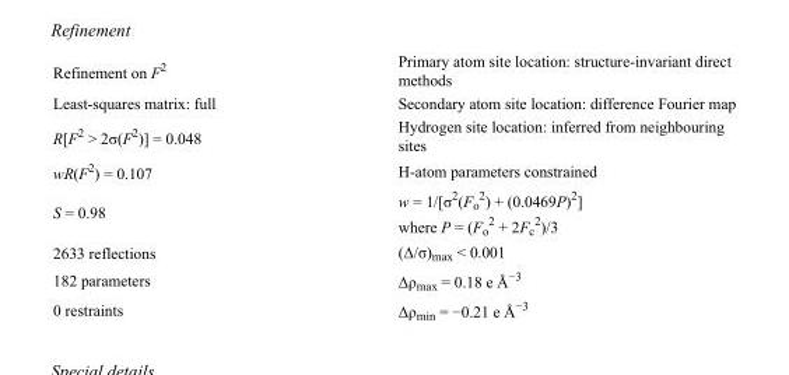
<table><tbody><tr><td>Refinement on F<sup>2</sup></td><td>Primary atom site location: structure-invariant direct methods</td></tr><tr><td>Least-squares matrix: full</td><td>Secondary atom site location: difference Fourier map</td></tr><tr><td>R[F<sup>2</sup> &gt; 2σ(F<sup>2</sup>)] = 0.048</td><td>Hydrogen site location: inferred from neighbouring sites</td></tr><tr><td>wR(F<sup>2</sup>) = 0.107</td><td>H-atom parameters constrained</td></tr><tr><td>S = 0.98</td><td>w = 1/[σ<sup>2</sup>(F<sub>o</sub> <sup>2</sup>) + (0.0469P)<sup>2</sup>] where P = (F<sub>o</sub> <sup>2</sup> + 2F<sub>c</sub> <sup>2</sup>)/3</td></tr><tr><td>2633 reflections</td><td>(Δ/σ)<sub>max</sub> &lt; 0.001</td></tr><tr><td>182 parameters</td><td>Δρ<sub>max</sub> = 0.18 e Å<sup>−3</sup></td></tr><tr><td>0 restraints</td><td>Δρ<sub>min</sub> = −0.21 e Å<sup>−3</sup></td></tr></tbody></table>